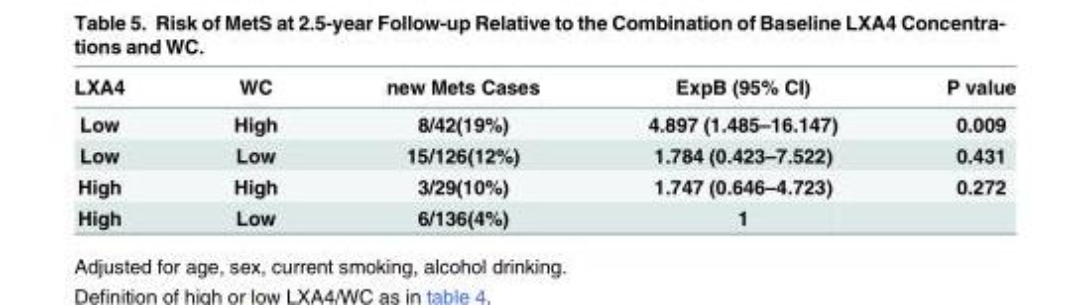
<table><thead><tr><td>LXA4</td><td>WC</td><td>new Mets Cases</td><td>ExpB (95% CI)</td><td>P value</td></tr></thead><tbody><tr><td>Low</td><td>High</td><td>8/42(19%)</td><td>4.897 (1.485–16.147)</td><td>0.009</td></tr><tr><td>Low</td><td>Low</td><td>15/126(12%)</td><td>1.784 (0.423–7.522)</td><td>0.431</td></tr><tr><td>High</td><td>High</td><td>3/29(10%)</td><td>1.747 (0.646–4.723)</td><td>0.272</td></tr><tr><td>High</td><td>Low</td><td>6/136(4%)</td><td>1</td><td></td></tr></tbody></table>